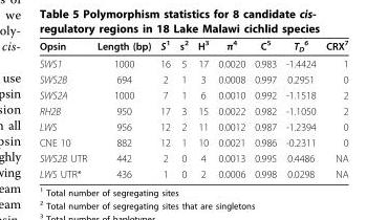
<table><thead><tr><td>Opsin</td><td>Length (bp)</td><td>S<sup>1</sup></td><td>s<sup>2</sup></td><td>H<sup>3</sup></td><td>π<sup>4</sup></td><td>C<sup>5</sup></td><td>T<sub>D</sub> <sup>6</sup></td><td>CRX<sup>7</sup></td></tr></thead><tbody><tr><td>SWS1</td><td>1000</td><td>16</td><td>5</td><td>17</td><td>0.0020</td><td>0.983</td><td>-1.4424</td><td>1</td></tr><tr><td>SWS2B</td><td>694</td><td>2</td><td>1</td><td>3</td><td>0.0008</td><td>0.997</td><td>0.2951</td><td>0</td></tr><tr><td>SWS2A</td><td>1000</td><td>7</td><td>1</td><td>6</td><td>0.0010</td><td>0.992</td><td>-1.1518</td><td>2</td></tr><tr><td>RH2B</td><td>950</td><td>17</td><td>3</td><td>15</td><td>0.0022</td><td>0.982</td><td>-1.1050</td><td>2</td></tr><tr><td>LWS</td><td>956</td><td>12</td><td>2</td><td>11</td><td>0.0012</td><td>0.987</td><td>-1.2394</td><td>0</td></tr><tr><td>CNE 10</td><td>882</td><td>12</td><td>1</td><td>10</td><td>0.0021</td><td>0.986</td><td>-0.2311</td><td>0</td></tr><tr><td>SWS2B UTR</td><td>442</td><td>2</td><td>0</td><td>4</td><td>0.0013</td><td>0.995</td><td>0.4486</td><td>NA</td></tr><tr><td>LWS UTR*</td><td>436</td><td>1</td><td>0</td><td>2</td><td>0.0006</td><td>0.998</td><td>0.0298</td><td>NA</td></tr></tbody></table>